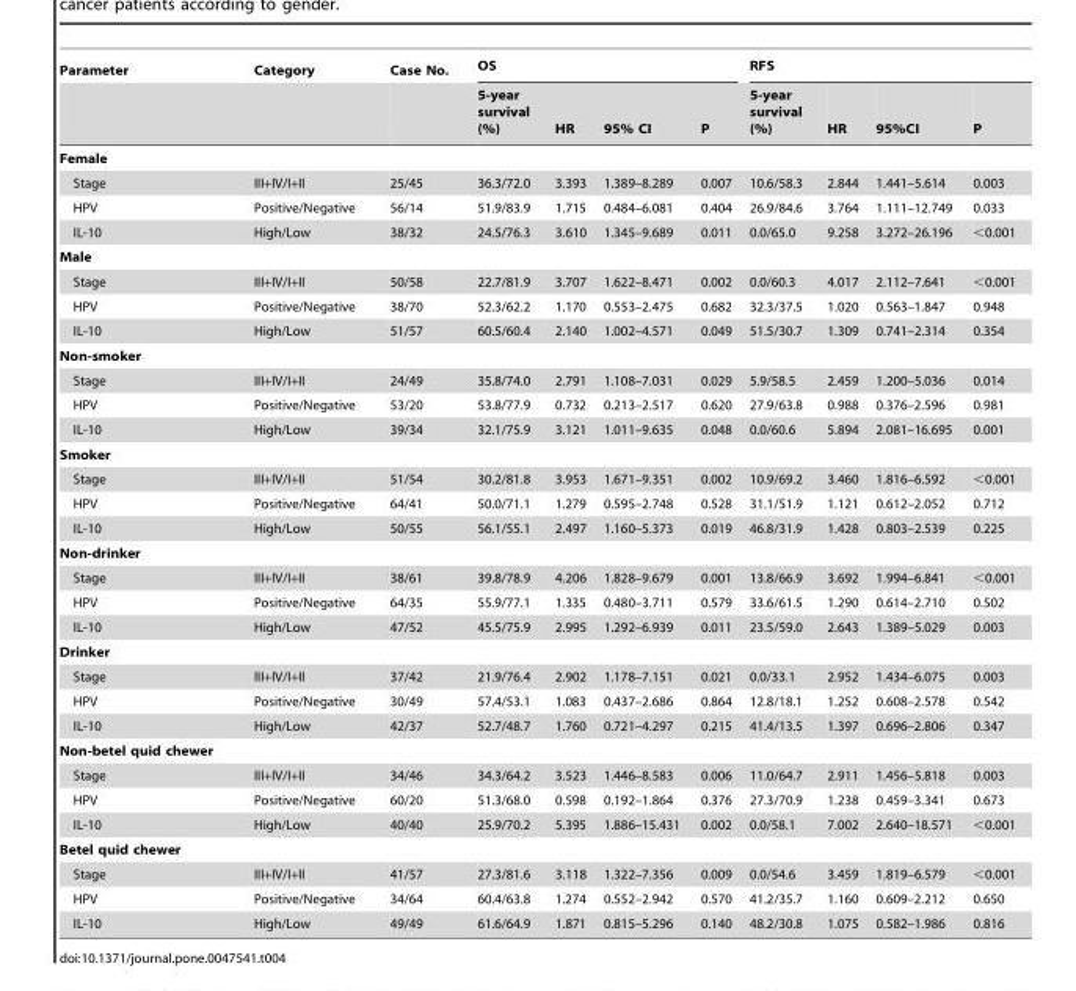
<table><thead><tr><td rowspan="2">Parameter</td><td rowspan="2">Category</td><td rowspan="2">Case No.</td><td colspan="4">OS</td><td colspan="4">RFS</td></tr><tr><td>5-year survival (%)</td><td>HR</td><td>95% CI</td><td>P</td><td>5-year survival (%)</td><td>HR</td><td>95%CI</td><td>P</td></tr></thead><tbody><tr><td colspan="11">Female</td></tr><tr><td>Stage</td><td>III+IV/I+II</td><td>25/45</td><td>36.3/72.0</td><td>3.393</td><td>1.389–8.289</td><td>0.007</td><td>10.6/58.3</td><td>2.844</td><td>1.441–5.614</td><td>0.003</td></tr><tr><td>HPV</td><td>Positive/Negative</td><td>56/14</td><td>51.9/83.9</td><td>1.715</td><td>0.484–6.081</td><td>0.404</td><td>26.9/84.6</td><td>3.764</td><td>1.111–12.749</td><td>0.033</td></tr><tr><td>IL-10</td><td>High/Low</td><td>38/32</td><td>24.5/76.3</td><td>3.610</td><td>1.345–9.689</td><td>0.011</td><td>0.0/65.0</td><td>9.258</td><td>3.272–26.196</td><td>&lt;0.001</td></tr><tr><td colspan="11">Male</td></tr><tr><td>Stage</td><td>III+IV/I+II</td><td>50/58</td><td>22.7/81.9</td><td>3.707</td><td>1.622–8.471</td><td>0.002</td><td>0.0/60.3</td><td>4.017</td><td>2.112–7.641</td><td>&lt;0.001</td></tr><tr><td>HPV</td><td>Positive/Negative</td><td>38/70</td><td>52.3/62.2</td><td>1.170</td><td>0.553–2.475</td><td>0.682</td><td>32.3/37.5</td><td>1.020</td><td>0.563–1.847</td><td>0.948</td></tr><tr><td>IL-10</td><td>High/Low</td><td>51/57</td><td>60.5/60.4</td><td>2.140</td><td>1.002–4.571</td><td>0.049</td><td>51.5/30.7</td><td>1.309</td><td>0.741–2.314</td><td>0.354</td></tr><tr><td colspan="11">Non-smoker</td></tr><tr><td>Stage</td><td>III+IV/I+II</td><td>24/49</td><td>35.8/74.0</td><td>2.791</td><td>1.108–7.031</td><td>0.029</td><td>5.9/58.5</td><td>2.459</td><td>1.200–5.036</td><td>0.014</td></tr><tr><td>HPV</td><td>Positive/Negative</td><td>53/20</td><td>53.8/77.9</td><td>0.732</td><td>0.213–2.517</td><td>0.620</td><td>27.9/63.8</td><td>0.988</td><td>0.376–2.596</td><td>0.981</td></tr><tr><td>IL-10</td><td>High/Low</td><td>39/34</td><td>32.1/75.9</td><td>3.121</td><td>1.011–9.635</td><td>0.048</td><td>0.0/60.6</td><td>5.894</td><td>2.081–16.695</td><td>0.001</td></tr><tr><td colspan="11">Smoker</td></tr><tr><td>Stage</td><td>III+IV/I+II</td><td>51/54</td><td>30.2/81.8</td><td>3.953</td><td>1.671–9.351</td><td>0.002</td><td>10.9/69.2</td><td>3.460</td><td>1.816–6.592</td><td>&lt;0.001</td></tr><tr><td>HPV</td><td>Positive/Negative</td><td>64/41</td><td>50.0/71.1</td><td>1.279</td><td>0.595–2.748</td><td>0.528</td><td>31.1/51.9</td><td>1.121</td><td>0.612–2.052</td><td>0.712</td></tr><tr><td>IL-10</td><td>High/Low</td><td>50/55</td><td>56.1/55.1</td><td>2.497</td><td>1.160–5.373</td><td>0.019</td><td>46.8/31.9</td><td>1.428</td><td>0.803–2.539</td><td>0.225</td></tr><tr><td colspan="11">Non-drinker</td></tr><tr><td>Stage</td><td>III+IV/I+II</td><td>38/61</td><td>39.8/78.9</td><td>4.206</td><td>1.828–9.679</td><td>0.001</td><td>13.8/66.9</td><td>3.692</td><td>1.994–6.841</td><td>&lt;0.001</td></tr><tr><td>HPV</td><td>Positive/Negative</td><td>64/35</td><td>55.9/77.1</td><td>1.335</td><td>0.480–3.711</td><td>0.579</td><td>33.6/61.5</td><td>1.290</td><td>0.614–2.710</td><td>0.502</td></tr><tr><td>IL-10</td><td>High/Low</td><td>47/52</td><td>45.5/75.9</td><td>2.995</td><td>1.292–6.939</td><td>0.011</td><td>23.5/59.0</td><td>2.643</td><td>1.389–5.029</td><td>0.003</td></tr><tr><td colspan="11">Drinker</td></tr><tr><td>Stage</td><td>III+IV/I+II</td><td>37/42</td><td>21.9/76.4</td><td>2.902</td><td>1.178–7.151</td><td>0.021</td><td>0.0/33.1</td><td>2.952</td><td>1.434–6.075</td><td>0.003</td></tr><tr><td>HPV</td><td>Positive/Negative</td><td>30/49</td><td>57.4/53.1</td><td>1.083</td><td>0.437–2.686</td><td>0.864</td><td>12.8/18.1</td><td>1.252</td><td>0.608–2.578</td><td>0.542</td></tr><tr><td>IL-10</td><td>High/Low</td><td>42/37</td><td>52.7/48.7</td><td>1.760</td><td>0.721–4.297</td><td>0.215</td><td>41.4/13.5</td><td>1.397</td><td>0.696–2.806</td><td>0.347</td></tr><tr><td colspan="11">Non-betel quid chewer</td></tr><tr><td>Stage</td><td>III+IV/I+II</td><td>34/46</td><td>34.3/64.2</td><td>3.523</td><td>1.446–8.583</td><td>0.006</td><td>11.0/64.7</td><td>2.911</td><td>1.456–5.818</td><td>0.003</td></tr><tr><td>HPV</td><td>Positive/Negative</td><td>60/20</td><td>51.3/68.0</td><td>0.598</td><td>0.192–1.864</td><td>0.376</td><td>27.3/70.9</td><td>1.238</td><td>0.459–3.341</td><td>0.673</td></tr><tr><td>IL-10</td><td>High/Low</td><td>40/40</td><td>25.9/70.2</td><td>5.395</td><td>1.886–15.431</td><td>0.002</td><td>0.0/58.1</td><td>7.002</td><td>2.640–18.571</td><td>&lt;0.001</td></tr><tr><td colspan="11">Betel quid chewer</td></tr><tr><td>Stage</td><td>III+IV/I+II</td><td>41/57</td><td>27.3/81.6</td><td>3.118</td><td>1.322–7.356</td><td>0.009</td><td>0.0/54.6</td><td>3.459</td><td>1.819–6.579</td><td>&lt;0.001</td></tr><tr><td>HPV</td><td>Positive/Negative</td><td>34/64</td><td>60.4/63.8</td><td>1.274</td><td>0.552–2.942</td><td>0.570</td><td>41.2/35.7</td><td>1.160</td><td>0.609–2.212</td><td>0.650</td></tr><tr><td>IL-10</td><td>High/Low</td><td>49/49</td><td>61.6/64.9</td><td>1.871</td><td>0.815–5.296</td><td>0.140</td><td>48.2/30.8</td><td>1.075</td><td>0.582–1.986</td><td>0.816</td></tr></tbody></table>